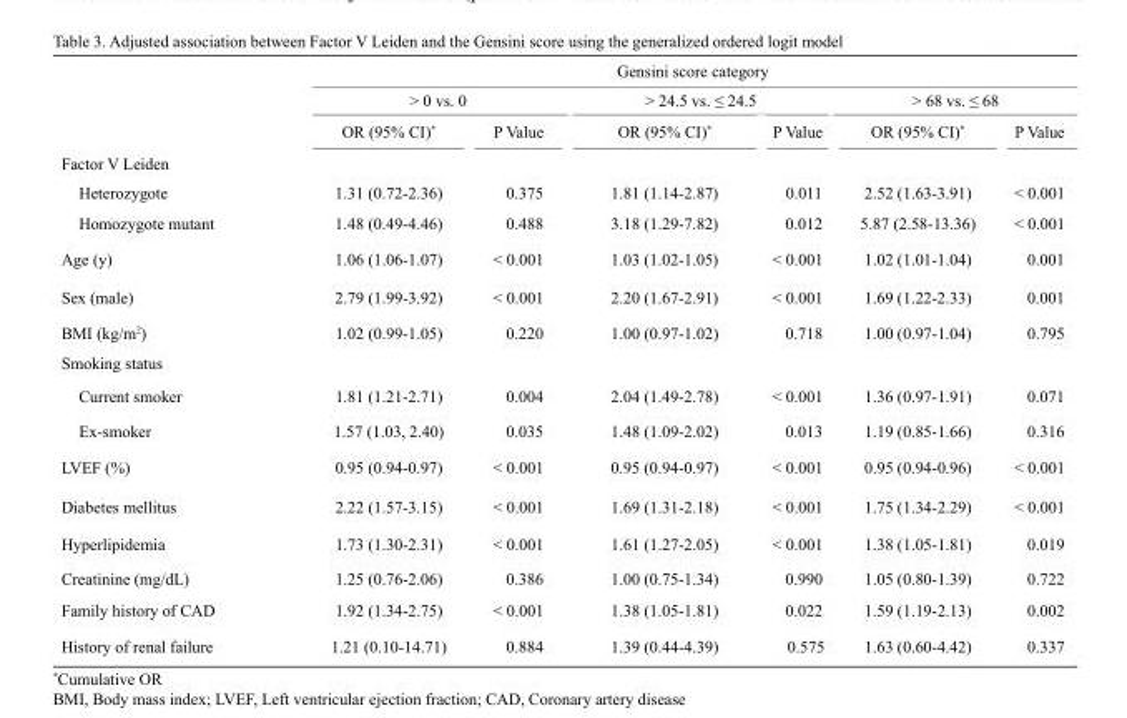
<table><thead><tr><td rowspan="3"></td><td colspan="6">Gensini score category</td></tr><tr><td colspan="2">&gt; 0 vs. 0</td><td colspan="2">&gt; 24.5 vs. ≤ 24.5</td><td colspan="2">&gt; 68 vs. ≤ 68</td></tr><tr><td>OR (95% CI)*</td><td>P Value</td><td>OR (95% CI)*</td><td>P Value</td><td>OR (95% CI)*</td><td>P Value</td></tr></thead><tbody><tr><td colspan="7">Factor V Leiden</td></tr><tr><td>Heterozygote</td><td>1.31 (0.72-2.36)</td><td>0.375</td><td>1.81 (1.14-2.87)</td><td>0.011</td><td>2.52 (1.63-3.91)</td><td>&lt; 0.001</td></tr><tr><td>Homozygote mutant</td><td>1.48 (0.49-4.46)</td><td>0.488</td><td>3.18 (1.29-7.82)</td><td>0.012</td><td>5.87 (2.58-13.36)</td><td>&lt; 0.001</td></tr><tr><td>Age (y)</td><td>1.06 (1.06-1.07)</td><td>&lt; 0.001</td><td>1.03 (1.02-1.05)</td><td>&lt; 0.001</td><td>1.02 (1.01-1.04)</td><td>0.001</td></tr><tr><td>Sex (male)</td><td>2.79 (1.99-3.92)</td><td>&lt; 0.001</td><td>2.20 (1.67-2.91)</td><td>&lt; 0.001</td><td>1.69 (1.22-2.33)</td><td>0.001</td></tr><tr><td>BMI (kg/m<sup>2</sup>)</td><td>1.02 (0.99-1.05)</td><td>0.220</td><td>1.00 (0.97-1.02)</td><td>0.718</td><td>1.00 (0.97-1.04)</td><td>0.795</td></tr><tr><td colspan="7">Smoking status</td></tr><tr><td>Current smoker</td><td>1.81 (1.21-2.71)</td><td>0.004</td><td>2.04 (1.49-2.78)</td><td>&lt; 0.001</td><td>1.36 (0.97-1.91)</td><td>0.071</td></tr><tr><td>Ex-smoker</td><td>1.57 (1.03, 2.40)</td><td>0.035</td><td>1.48 (1.09-2.02)</td><td>0.013</td><td>1.19 (0.85-1.66)</td><td>0.316</td></tr><tr><td>LVEF (%)</td><td>0.95 (0.94-0.97)</td><td>&lt; 0.001</td><td>0.95 (0.94-0.97)</td><td>&lt; 0.001</td><td>0.95 (0.94-0.96)</td><td>&lt; 0.001</td></tr><tr><td>Diabetes mellitus</td><td>2.22 (1.57-3.15)</td><td>&lt; 0.001</td><td>1.69 (1.31-2.18)</td><td>&lt; 0.001</td><td>1.75 (1.34-2.29)</td><td>&lt; 0.001</td></tr><tr><td>Hyperlipidemia</td><td>1.73 (1.30-2.31)</td><td>&lt; 0.001</td><td>1.61 (1.27-2.05)</td><td>&lt; 0.001</td><td>1.38 (1.05-1.81)</td><td>0.019</td></tr><tr><td>Creatinine (mg/dL)</td><td>1.25 (0.76-2.06)</td><td>0.386</td><td>1.00 (0.75-1.34)</td><td>0.990</td><td>1.05 (0.80-1.39)</td><td>0.722</td></tr><tr><td>Family history of CAD</td><td>1.92 (1.34-2.75)</td><td>&lt; 0.001</td><td>1.38 (1.05-1.81)</td><td>0.022</td><td>1.59 (1.19-2.13)</td><td>0.002</td></tr><tr><td>History of renal failure</td><td>1.21 (0.10-14.71)</td><td>0.884</td><td>1.39 (0.44-4.39)</td><td>0.575</td><td>1.63 (0.60-4.42)</td><td>0.337</td></tr></tbody></table>